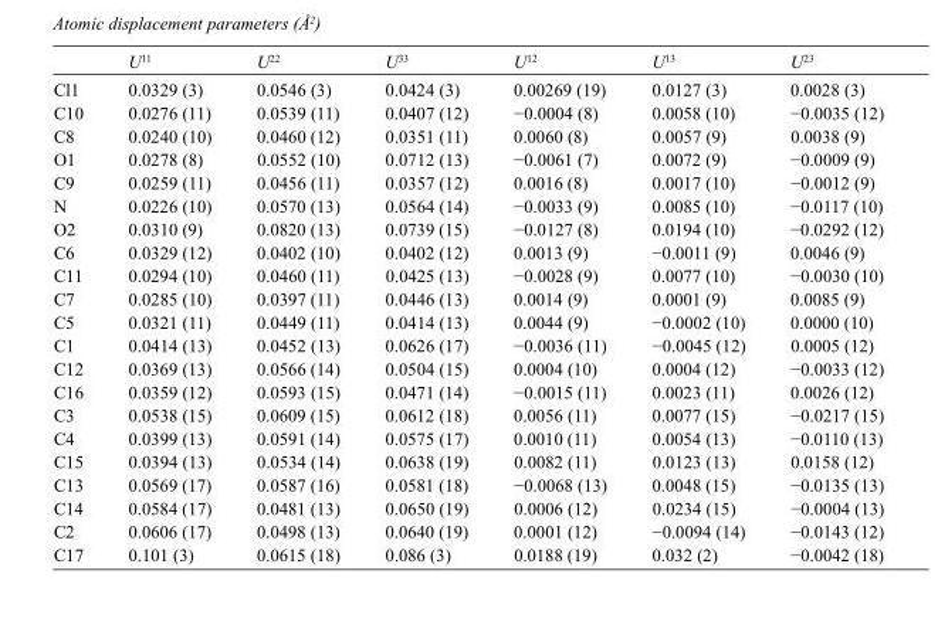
<table><thead><tr><td></td><td>U<sup>11</sup></td><td>U<sup>22</sup></td><td>U<sup>33</sup></td><td>U<sup>12</sup></td><td>U<sup>13</sup></td><td>U<sup>23</sup></td></tr></thead><tbody><tr><td>Cl1</td><td>0.0329 (3)</td><td>0.0546 (3)</td><td>0.0424 (3)</td><td>0.00269 (19)</td><td>0.0127 (3)</td><td>0.0028 (3)</td></tr><tr><td>C10</td><td>0.0276 (11)</td><td>0.0539 (11)</td><td>0.0407 (12)</td><td>−0.0004 (8)</td><td>0.0058 (10)</td><td>−0.0035 (12)</td></tr><tr><td>C8</td><td>0.0240 (10)</td><td>0.0460 (12)</td><td>0.0351 (11)</td><td>0.0060 (8)</td><td>0.0057 (9)</td><td>0.0038 (9)</td></tr><tr><td>O1</td><td>0.0278 (8)</td><td>0.0552 (10)</td><td>0.0712 (13)</td><td>−0.0061 (7)</td><td>0.0072 (9)</td><td>−0.0009 (9)</td></tr><tr><td>C9</td><td>0.0259 (11)</td><td>0.0456 (11)</td><td>0.0357 (12)</td><td>0.0016 (8)</td><td>0.0017 (10)</td><td>−0.0012 (9)</td></tr><tr><td>N</td><td>0.0226 (10)</td><td>0.0570 (13)</td><td>0.0564 (14)</td><td>−0.0033 (9)</td><td>0.0085 (10)</td><td>−0.0117 (10)</td></tr><tr><td>O2</td><td>0.0310 (9)</td><td>0.0820 (13)</td><td>0.0739 (15)</td><td>−0.0127 (8)</td><td>0.0194 (10)</td><td>−0.0292 (12)</td></tr><tr><td>C6</td><td>0.0329 (12)</td><td>0.0402 (10)</td><td>0.0402 (12)</td><td>0.0013 (9)</td><td>−0.0011 (9)</td><td>0.0046 (9)</td></tr><tr><td>C11</td><td>0.0294 (10)</td><td>0.0460 (11)</td><td>0.0425 (13)</td><td>−0.0028 (9)</td><td>0.0077 (10)</td><td>−0.0030 (10)</td></tr><tr><td>C7</td><td>0.0285 (10)</td><td>0.0397 (11)</td><td>0.0446 (13)</td><td>0.0014 (9)</td><td>0.0001 (9)</td><td>0.0085 (9)</td></tr><tr><td>C5</td><td>0.0321 (11)</td><td>0.0449 (11)</td><td>0.0414 (13)</td><td>0.0044 (9)</td><td>−0.0002 (10)</td><td>0.0000 (10)</td></tr><tr><td>C1</td><td>0.0414 (13)</td><td>0.0452 (13)</td><td>0.0626 (17)</td><td>−0.0036 (11)</td><td>−0.0045 (12)</td><td>0.0005 (12)</td></tr><tr><td>C12</td><td>0.0369 (13)</td><td>0.0566 (14)</td><td>0.0504 (15)</td><td>0.0004 (10)</td><td>0.0004 (12)</td><td>−0.0033 (12)</td></tr><tr><td>C16</td><td>0.0359 (12)</td><td>0.0593 (15)</td><td>0.0471 (14)</td><td>−0.0015 (11)</td><td>0.0023 (11)</td><td>0.0026 (12)</td></tr><tr><td>C3</td><td>0.0538 (15)</td><td>0.0609 (15)</td><td>0.0612 (18)</td><td>0.0056 (11)</td><td>0.0077 (15)</td><td>−0.0217 (15)</td></tr><tr><td>C4</td><td>0.0399 (13)</td><td>0.0591 (14)</td><td>0.0575 (17)</td><td>0.0010 (11)</td><td>0.0054 (13)</td><td>−0.0110 (13)</td></tr><tr><td>C15</td><td>0.0394 (13)</td><td>0.0534 (14)</td><td>0.0638 (19)</td><td>0.0082 (11)</td><td>0.0123 (13)</td><td>0.0158 (12)</td></tr><tr><td>C13</td><td>0.0569 (17)</td><td>0.0587 (16)</td><td>0.0581 (18)</td><td>−0.0068 (13)</td><td>0.0048 (15)</td><td>−0.0135 (13)</td></tr><tr><td>C14</td><td>0.0584 (17)</td><td>0.0481 (13)</td><td>0.0650 (19)</td><td>0.0006 (12)</td><td>0.0234 (15)</td><td>−0.0004 (13)</td></tr><tr><td>C2</td><td>0.0606 (17)</td><td>0.0498 (13)</td><td>0.0640 (19)</td><td>0.0001 (12)</td><td>−0.0094 (14)</td><td>−0.0143 (12)</td></tr><tr><td>C17</td><td>0.101 (3)</td><td>0.0615 (18)</td><td>0.086 (3)</td><td>0.0188 (19)</td><td>0.032 (2)</td><td>−0.0042 (18)</td></tr></tbody></table>